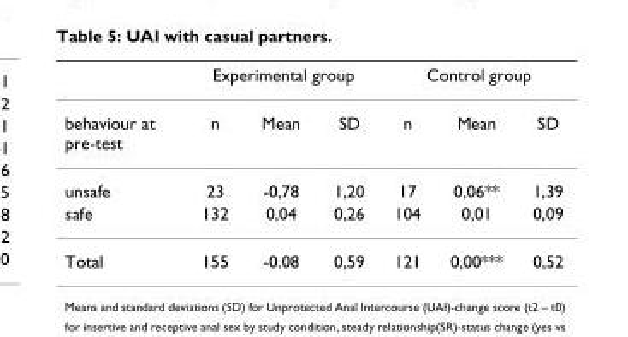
<table><thead><tr><td rowspan="2">behaviour at pre-test</td><td colspan="3">Experimental group</td><td colspan="3">Control group</td></tr><tr><td>n</td><td>Mean</td><td>SD</td><td>n</td><td>Mean</td><td>SD</td></tr></thead><tbody><tr><td>unsafe</td><td>23</td><td>-0,78</td><td>1,20</td><td>17</td><td>0,06**</td><td>1,39</td></tr><tr><td>safe</td><td>132</td><td>0,04</td><td>0,26</td><td>104</td><td>0,01</td><td>0,09</td></tr><tr><td>Total</td><td>155</td><td>-0.08</td><td>0,59</td><td>121</td><td>0,00***</td><td>0,52</td></tr></tbody></table>